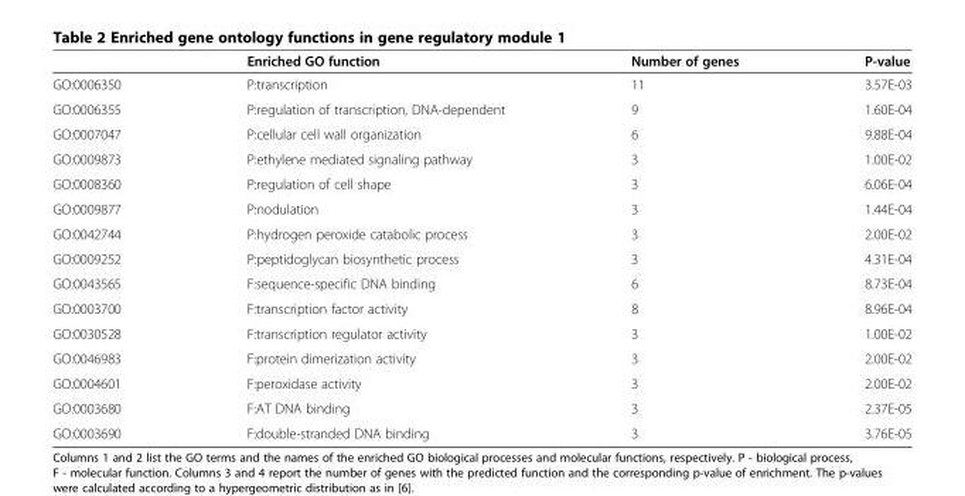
<table><thead><tr><td></td><td>Enriched GO function</td><td>Number of genes</td><td>P-value</td></tr></thead><tbody><tr><td>GO:0006350</td><td>P:transcription</td><td>11</td><td>3.57E-03</td></tr><tr><td>GO:0006355</td><td>P:regulation of transcription, DNA-dependent</td><td>9</td><td>1.60E-04</td></tr><tr><td>GO:0007047</td><td>P:cellular cell wall organization</td><td>6</td><td>9.88E-04</td></tr><tr><td>GO:0009873</td><td>P:ethylene mediated signaling pathway</td><td>3</td><td>1.00E-02</td></tr><tr><td>GO:0008360</td><td>P:regulation of cell shape</td><td>3</td><td>6.06E-04</td></tr><tr><td>GO:0009877</td><td>P:nodulation</td><td>3</td><td>1.44E-04</td></tr><tr><td>GO:0042744</td><td>P:hydrogen peroxide catabolic process</td><td>3</td><td>2.00E-02</td></tr><tr><td>GO:0009252</td><td>P:peptidoglycan biosynthetic process</td><td>3</td><td>4.31E-04</td></tr><tr><td>GO:0043565</td><td>F:sequence-specific DNA binding</td><td>6</td><td>8.73E-04</td></tr><tr><td>GO:0003700</td><td>F:transcription factor activity</td><td>8</td><td>8.96E-04</td></tr><tr><td>GO:0030528</td><td>F:transcription regulator activity</td><td>3</td><td>1.00E-02</td></tr><tr><td>GO:0046983</td><td>F:protein dimerization activity</td><td>3</td><td>2.00E-02</td></tr><tr><td>GO:0004601</td><td>F:peroxidase activity</td><td>3</td><td>2.00E-02</td></tr><tr><td>GO:0003680</td><td>F:AT DNA binding</td><td>3</td><td>2.37E-05</td></tr><tr><td>GO:0003690</td><td>F:double-stranded DNA binding</td><td>3</td><td>3.76E-05</td></tr></tbody></table>